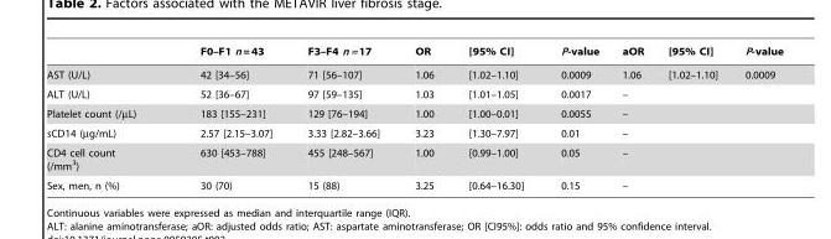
<table><thead><tr><td></td><td>F0–F1 n = 43</td><td>F3–F4 n = 17</td><td>OR</td><td>[95% CI]</td><td>P-value</td><td>aOR</td><td>[95% CI]</td><td>P-value</td></tr></thead><tbody><tr><td>AST (U/L)</td><td>42 [34–56]</td><td>71 [56–107]</td><td>1.06</td><td>[1.02–1.10]</td><td>0.0009</td><td>1.06</td><td>[1.02–1.10]</td><td>0.0009</td></tr><tr><td>ALT (U/L)</td><td>52 [36–67]</td><td>97 [59–135]</td><td>1.03</td><td>[1.01–1.05]</td><td>0.0017</td><td>–</td><td></td><td></td></tr><tr><td>Platelet count (/µL)</td><td>183 [155–231]</td><td>129 [76–194]</td><td>1.00</td><td>[1.00–0.01]</td><td>0.0055</td><td>–</td><td></td><td></td></tr><tr><td>sCD14 (µg/mL)</td><td>2.57 [2.15–3.07]</td><td>3.33 [2.82–3.66]</td><td>3.23</td><td>[1.30–7.97]</td><td>0.01</td><td>–</td><td></td><td></td></tr><tr><td>CD4 cell count (/mm<sup>3</sup>)</td><td>630 [453–788]</td><td>455 [248–567]</td><td>1.00</td><td>[0.99–1.00]</td><td>0.05</td><td>–</td><td></td><td></td></tr><tr><td>Sex, men, n (%)</td><td>30 (70)</td><td>15 (88)</td><td>3.25</td><td>[0.64–16.30]</td><td>0.15</td><td>–</td><td></td><td></td></tr></tbody></table>